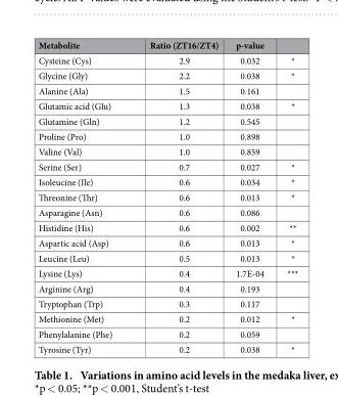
<table><thead><tr><td>Metabolite</td><td>Ratio (ZT16/ZT4)</td><td>p-value</td><td></td></tr></thead><tbody><tr><td>Cysteine (Cys)</td><td>2.9</td><td>0.032</td><td>*</td></tr><tr><td>Glycine (Gly)</td><td>2.2</td><td>0.038</td><td>*</td></tr><tr><td>Alanine (Ala)</td><td>1.5</td><td>0.161</td><td></td></tr><tr><td>Glutamic acid (Glu)</td><td>1.3</td><td>0.038</td><td>*</td></tr><tr><td>Glutamine (Gln)</td><td>1.2</td><td>0.545</td><td></td></tr><tr><td>Proline (Pro)</td><td>1.0</td><td>0.898</td><td></td></tr><tr><td>Valine (Val)</td><td>1.0</td><td>0.859</td><td></td></tr><tr><td>Serine (Ser)</td><td>0.7</td><td>0.027</td><td>*</td></tr><tr><td>Isoleucine (Ile)</td><td>0.6</td><td>0.034</td><td>*</td></tr><tr><td>Threonine (Thr)</td><td>0.6</td><td>0.013</td><td>*</td></tr><tr><td>Asparagine (Asn)</td><td>0.6</td><td>0.086</td><td></td></tr><tr><td>Histidine (His)</td><td>0.6</td><td>0.002</td><td>**</td></tr><tr><td>Aspartic acid (Asp)</td><td>0.6</td><td>0.013</td><td>*</td></tr><tr><td>Leucine (Leu)</td><td>0.5</td><td>0.013</td><td>*</td></tr><tr><td>Lysine (Lys)</td><td>0.4</td><td>1.7E-04</td><td>***</td></tr><tr><td>Arginine (Arg)</td><td>0.4</td><td>0.193</td><td></td></tr><tr><td>Tryptophan (Trp)</td><td>0.3</td><td>0.117</td><td></td></tr><tr><td>Methionine (Met)</td><td>0.2</td><td>0.012</td><td>*</td></tr><tr><td>Phenylalanine (Phe)</td><td>0.2</td><td>0.059</td><td></td></tr><tr><td>Tyrosine (Tyr)</td><td>0.2</td><td>0.038</td><td>*</td></tr></tbody></table>